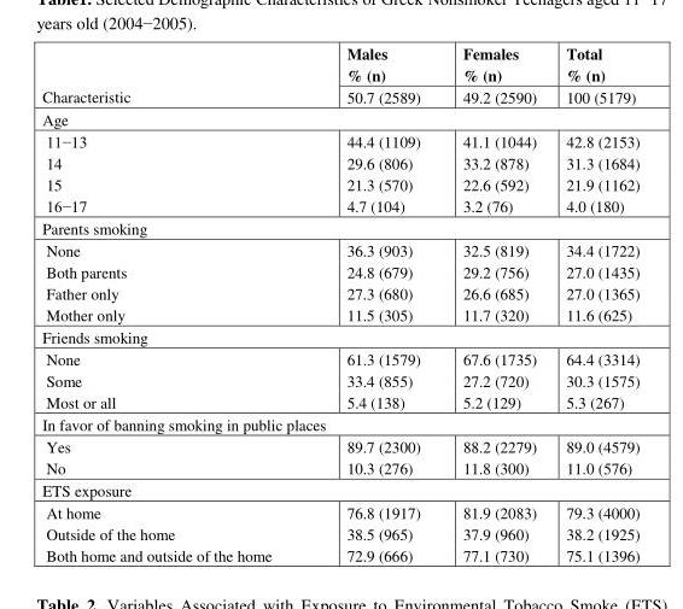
<table><thead><tr><td rowspan="2">Characteristic</td><td rowspan="2">Males % (n) 50.7 (2589)</td><td rowspan="2">Females % (n) 49.2 (2590)</td><td rowspan="2">Total % (n) 100 (5179)</td></tr><tr></tr></thead><tbody><tr><td colspan="4">Age</td></tr><tr><td>11−13 14 15 16−17</td><td>44.4 (1109) 29.6 (806) 21.3 (570) 4.7 (104)</td><td>41.1 (1044) 33.2 (878) 22.6 (592) 3.2 (76)</td><td>42.8 (2153) 31.3 (1684) 21.9 (1162) 4.0 (180)</td></tr><tr><td colspan="4">Parents smoking</td></tr><tr><td>None Both parents Father only Mother only</td><td>36.3 (903) 24.8 (679) 27.3 (680) 11.5 (305)</td><td>32.5 (819) 29.2 (756) 26.6 (685) 11.7 (320)</td><td>34.4 (1722) 27.0 (1435) 27.0 (1365) 11.6 (625)</td></tr><tr><td colspan="4">Friends smoking</td></tr><tr><td>None Some Most or all</td><td>61.3 (1579) 33.4 (855) 5.4 (138)</td><td>67.6 (1735) 27.2 (720) 5.2 (129)</td><td>64.4 (3314) 30.3 (1575) 5.3 (267)</td></tr><tr><td colspan="4">In favor of banning smoking in public places</td></tr><tr><td>Yes No</td><td>89.7 (2300) 10.3 (276)</td><td>88.2 (2279) 11.8 (300)</td><td>89.0 (4579) 11.0 (576)</td></tr><tr><td colspan="4">ETS exposure</td></tr><tr><td>At home Outside of the home Both home and outside of the home</td><td>76.8 (1917) 38.5 (965) 72.9 (666)</td><td>81.9 (2083) 37.9 (960) 77.1 (730)</td><td>79.3 (4000) 38.2 (1925) 75.1 (1396)</td></tr></tbody></table>